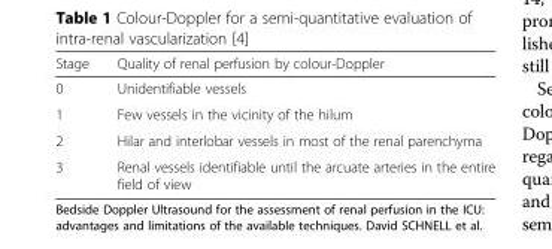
<table><thead><tr><td>Stage</td><td>Quality of renal perfusion by colour-Doppler</td></tr></thead><tbody><tr><td>0</td><td>Unidentifiable vessels</td></tr><tr><td>1</td><td>Few vessels in the vicinity of the hilum</td></tr><tr><td>2</td><td>Hilar and interlobar vessels in most of the renal parenchyma</td></tr><tr><td>3</td><td>Renal vessels identifiable until the arcuate arteries in the entire field of view</td></tr></tbody></table>